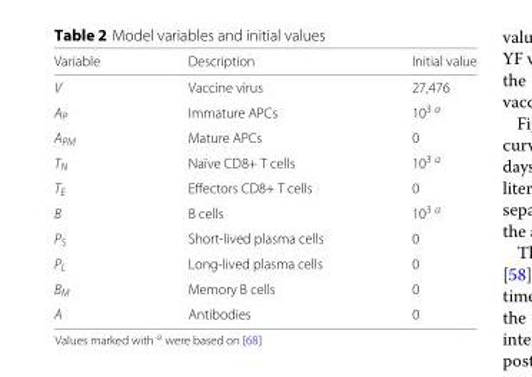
<table><thead><tr><td>Variable</td><td>Description</td><td>Initial value</td></tr></thead><tbody><tr><td>V</td><td>Vaccine virus</td><td>27,476</td></tr><tr><td>A<sub>P</sub></td><td>Immature APCs</td><td>10<sup>3 a</sup></td></tr><tr><td>A<sub>PM</sub></td><td>Mature APCs</td><td>0</td></tr><tr><td>T<sub>N</sub></td><td>Naïve CD8+ T cells</td><td>10<sup>3 a</sup></td></tr><tr><td>T<sub>E</sub></td><td>Effectors CD8+ T cells</td><td>0</td></tr><tr><td>B</td><td>B cells</td><td>10<sup>3 a</sup></td></tr><tr><td>P<sub>S</sub></td><td>Short-lived plasma cells</td><td>0</td></tr><tr><td>P<sub>L</sub></td><td>Long-lived plasma cells</td><td>0</td></tr><tr><td>B<sub>M</sub></td><td>Memory B cells</td><td>0</td></tr><tr><td>A</td><td>Antibodies</td><td>0</td></tr></tbody></table>